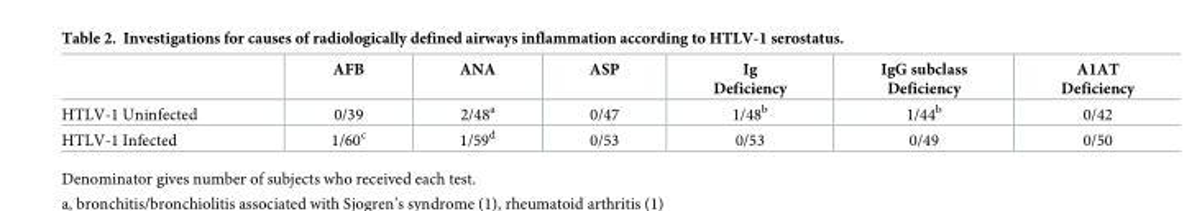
<table><thead><tr><td></td><td>AFB</td><td>ANA</td><td>ASP</td><td>Ig Deficiency</td><td>IgG subclass Deficiency</td><td>A1AT Deficiency</td></tr></thead><tbody><tr><td>HTLV-1 Uninfected</td><td>0/39</td><td>2/48<sup>a</sup></td><td>0/47</td><td>1/48<sup>b</sup></td><td>1/44<sup>b</sup></td><td>0/42</td></tr><tr><td>HTLV-1 Infected</td><td>1/60<sup>c</sup></td><td>1/59<sup>d</sup></td><td>0/53</td><td>0/53</td><td>0/49</td><td>0/50</td></tr></tbody></table>